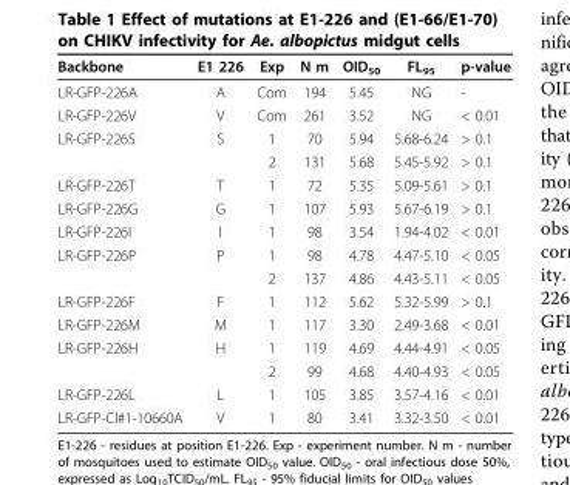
<table><thead><tr><td>Backbone</td><td>E1 226</td><td>Exp</td><td>N m</td><td>OID<sub>50</sub></td><td>FL<sub>95</sub></td><td>p-value</td></tr></thead><tbody><tr><td>LR-GFP-226A</td><td>A</td><td>Com</td><td>194</td><td>5.45</td><td>NG</td><td>-</td></tr><tr><td>LR-GFP-226V</td><td>V</td><td>Com</td><td>261</td><td>3.52</td><td>NG</td><td>&lt; 0.01</td></tr><tr><td rowspan="2">LR-GFP-226S</td><td>S</td><td>1</td><td>70</td><td>5.94</td><td>5.68-6.24</td><td>&gt; 0.1</td></tr><tr><td></td><td>2</td><td>131</td><td>5.68</td><td>5.45-5.92</td><td>&gt; 0.1</td></tr><tr><td>LR-GFP-226T</td><td>T</td><td>1</td><td>72</td><td>5.35</td><td>5.09-5.61</td><td>&gt; 0.1</td></tr><tr><td>LR-GFP-226G</td><td>G</td><td>1</td><td>107</td><td>5.93</td><td>5.67-6.19</td><td>&gt; 0.1</td></tr><tr><td>LR-GFP-226I</td><td>I</td><td>1</td><td>98</td><td>3.54</td><td>1.94-4.02</td><td>&lt; 0.01</td></tr><tr><td rowspan="2">LR-GFP-226P</td><td>P</td><td>1</td><td>98</td><td>4.78</td><td>4.47-5.10</td><td>&lt; 0.05</td></tr><tr><td></td><td>2</td><td>137</td><td>4.86</td><td>4.43-5.11</td><td>&lt; 0.05</td></tr><tr><td>LR-GFP-226F</td><td>F</td><td>1</td><td>112</td><td>5.62</td><td>5.32-5.99</td><td>&gt; 0.1</td></tr><tr><td>LR-GFP-226M</td><td>M</td><td>1</td><td>117</td><td>3.30</td><td>2.49-3.68</td><td>&lt; 0.01</td></tr><tr><td rowspan="2">LR-GFP-226H</td><td>H</td><td>1</td><td>119</td><td>4.69</td><td>4.44-4.91</td><td>&lt; 0.05</td></tr><tr><td></td><td>2</td><td>99</td><td>4.68</td><td>4.40-4.93</td><td>&lt; 0.05</td></tr><tr><td>LR-GFP-226L</td><td>L</td><td>1</td><td>105</td><td>3.85</td><td>3.57-4.16</td><td>&lt; 0.01</td></tr><tr><td>LR-GFP-Cl#1-10660A</td><td>V</td><td>1</td><td>80</td><td>3.41</td><td>3.32-3.50</td><td>&lt; 0.01</td></tr></tbody></table>